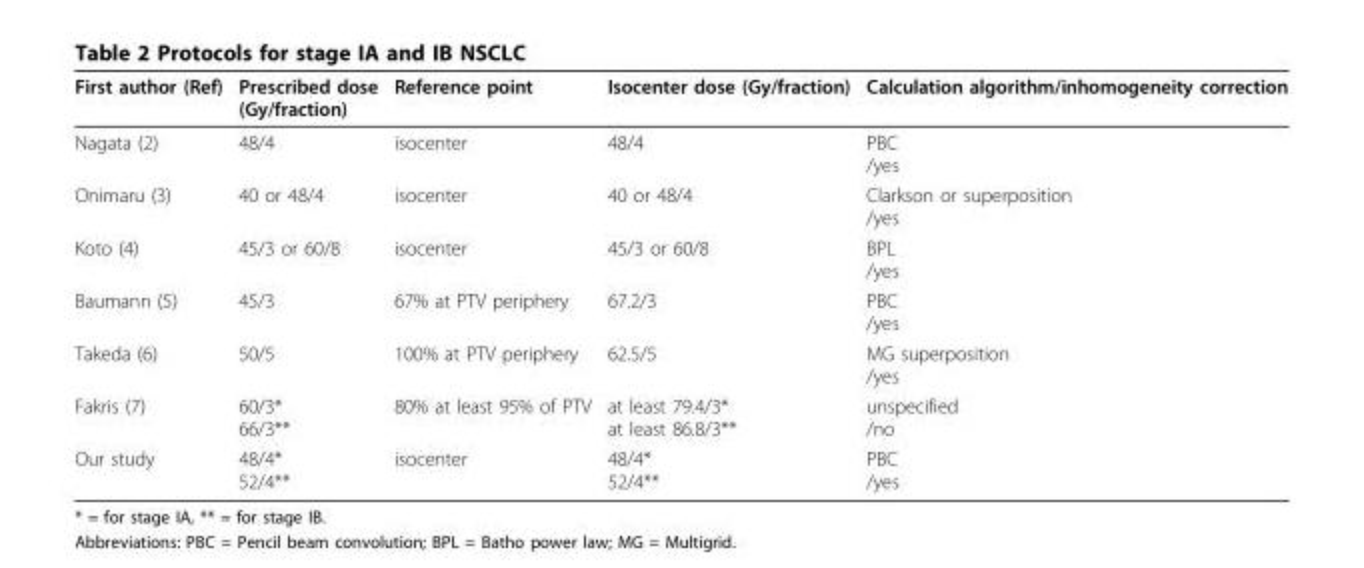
<table><thead><tr><td>First author (Ref)</td><td>Prescribed dose (Gy/fraction)</td><td>Reference point</td><td>Isocenter dose (Gy/fraction)</td><td>Calculation algorithm/inhomogeneity correction</td></tr></thead><tbody><tr><td>Nagata (2)</td><td>48/4</td><td>isocenter</td><td>48/4</td><td>PBC /yes</td></tr><tr><td>Onimaru (3)</td><td>40 or 48/4</td><td>isocenter</td><td>40 or 48/4</td><td>Clarkson or superposition /yes</td></tr><tr><td>Koto (4)</td><td>45/3 or 60/8</td><td>isocenter</td><td>45/3 or 60/8</td><td>BPL /yes</td></tr><tr><td>Baumann (5)</td><td>45/3</td><td>67% at PTV periphery</td><td>67.2/3</td><td>PBC /yes</td></tr><tr><td>Takeda (6)</td><td>50/5</td><td>100% at PTV periphery</td><td>62.5/5</td><td>MG superposition /yes</td></tr><tr><td>Fakris (7)</td><td>60/3* 66/3**</td><td>80% at least 95% of PTV</td><td>at least 79.4/3* at least 86.8/3**</td><td>unspecified /no</td></tr><tr><td>Our study</td><td>48/4* 52/4**</td><td>isocenter</td><td>48/4* 52/4**</td><td>PBC /yes</td></tr></tbody></table>